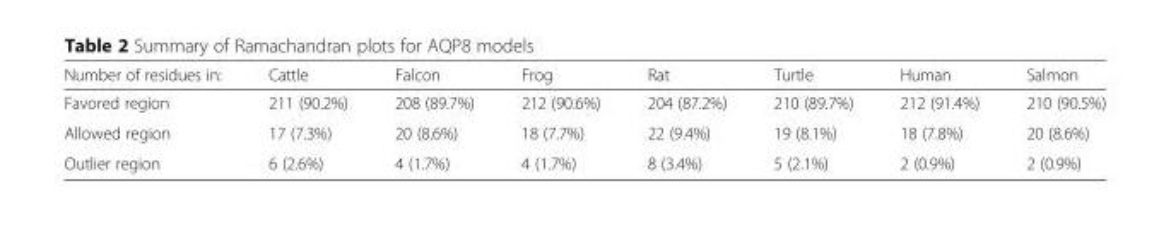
<table><thead><tr><td>Number of residues in:</td><td>Cattle</td><td>Falcon</td><td>Frog</td><td>Rat</td><td>Turtle</td><td>Human</td><td>Salmon</td></tr></thead><tbody><tr><td>Favored region</td><td>211 (90.2%)</td><td>208 (89.7%)</td><td>212 (90.6%)</td><td>204 (87.2%)</td><td>210 (89.7%)</td><td>212 (91.4%)</td><td>210 (90.5%)</td></tr><tr><td>Allowed region</td><td>17 (7.3%)</td><td>20 (8.6%)</td><td>18 (7.7%)</td><td>22 (9.4%)</td><td>19 (8.1%)</td><td>18 (7.8%)</td><td>20 (8.6%)</td></tr><tr><td>Outlier region</td><td>6 (2.6%)</td><td>4 (1.7%)</td><td>4 (1.7%)</td><td>8 (3.4%)</td><td>5 (2.1%)</td><td>2 (0.9%)</td><td>2 (0.9%)</td></tr></tbody></table>